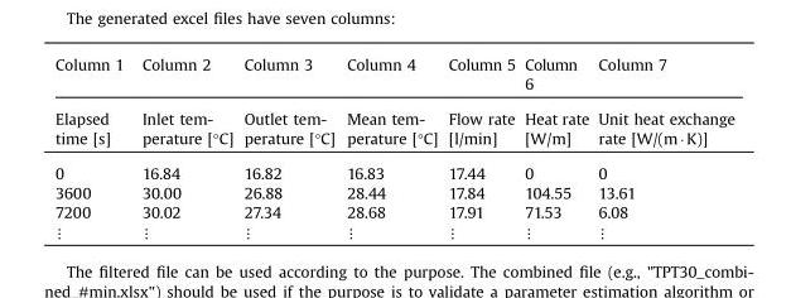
<table><thead><tr><td rowspan="2">Column 1 Elapsed time [s]</td><td rowspan="2">Column 2 Inlet tem- perature [°C]</td><td rowspan="2">Column 3 Outlet tem- perature [°C]</td><td rowspan="2">Column 4 Mean tem- perature [°C]</td><td rowspan="2">Column 5 Flow rate [l/min]</td><td rowspan="2">Column 6 Heat rate [W/m]</td><td rowspan="2">Column 7 Unit heat exchange rate [W/(m · K)]</td></tr><tr></tr></thead><tbody><tr><td>0</td><td>16.84</td><td>16.82</td><td>16.83</td><td>17.44</td><td>0</td><td>0</td></tr><tr><td>3600</td><td>30.00</td><td>26.88</td><td>28.44</td><td>17.84</td><td>104.55</td><td>13.61</td></tr><tr><td>7200</td><td>30.02</td><td>27.34</td><td>28.68</td><td>17.91</td><td>71.53</td><td>6.08</td></tr><tr><td>⋮</td><td>⋮</td><td>⋮</td><td>⋮</td><td>⋮</td><td>⋮</td><td>⋮</td></tr></tbody></table>